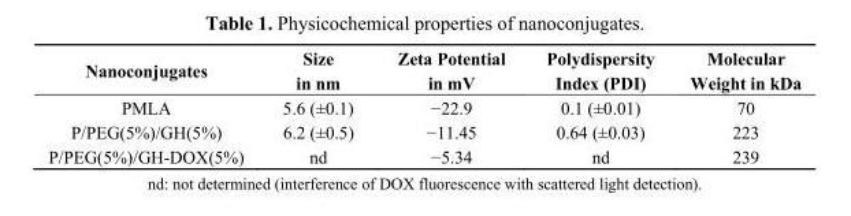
<table><thead><tr><td>Nanoconjugates</td><td>Size in nm</td><td>Zeta Potential in mV</td><td>Polydispersity Index (PDI)</td><td>Molecular Weight in kDa</td></tr></thead><tbody><tr><td>PMLA</td><td>5.6 (±0.1)</td><td>−22.9</td><td>0.1 (±0.01)</td><td>70</td></tr><tr><td>P/PEG(5%)/GH(5%)</td><td>6.2 (±0.5)</td><td>−11.45</td><td>0.64 (±0.03)</td><td>223</td></tr><tr><td>P/PEG(5%)/GH-DOX(5%)</td><td>nd</td><td>−5.34</td><td>nd</td><td>239</td></tr></tbody></table>